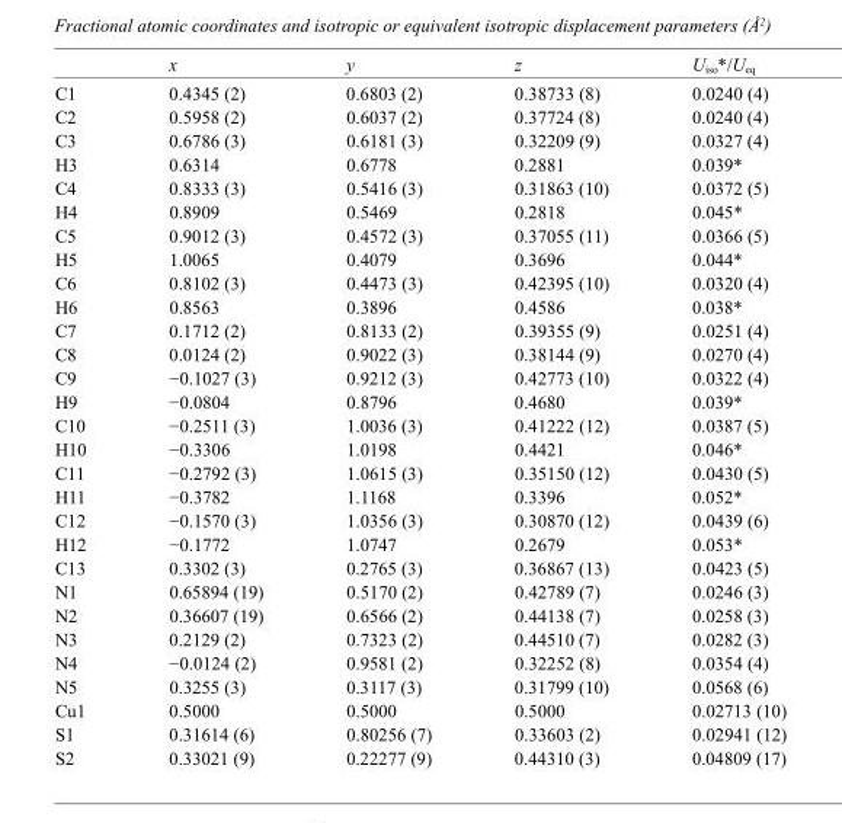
<table><thead><tr><td></td><td>x</td><td>y</td><td>z</td><td>U<sub>iso</sub>*/U<sub>eq</sub></td></tr></thead><tbody><tr><td>C1</td><td>0.4345 (2)</td><td>0.6803 (2)</td><td>0.38733 (8)</td><td>0.0240 (4)</td></tr><tr><td>C2</td><td>0.5958 (2)</td><td>0.6037 (2)</td><td>0.37724 (8)</td><td>0.0240 (4)</td></tr><tr><td>C3</td><td>0.6786 (3)</td><td>0.6181 (3)</td><td>0.32209 (9)</td><td>0.0327 (4)</td></tr><tr><td>H3</td><td>0.6314</td><td>0.6778</td><td>0.2881</td><td>0.039*</td></tr><tr><td>C4</td><td>0.8333 (3)</td><td>0.5416 (3)</td><td>0.31863 (10)</td><td>0.0372 (5)</td></tr><tr><td>H4</td><td>0.8909</td><td>0.5469</td><td>0.2818</td><td>0.045*</td></tr><tr><td>C5</td><td>0.9012 (3)</td><td>0.4572 (3)</td><td>0.37055 (11)</td><td>0.0366 (5)</td></tr><tr><td>H5</td><td>1.0065</td><td>0.4079</td><td>0.3696</td><td>0.044*</td></tr><tr><td>C6</td><td>0.8102 (3)</td><td>0.4473 (3)</td><td>0.42395 (10)</td><td>0.0320 (4)</td></tr><tr><td>H6</td><td>0.8563</td><td>0.3896</td><td>0.4586</td><td>0.038*</td></tr><tr><td>C7</td><td>0.1712 (2)</td><td>0.8133 (2)</td><td>0.39355 (9)</td><td>0.0251 (4)</td></tr><tr><td>C8</td><td>0.0124 (2)</td><td>0.9022 (3)</td><td>0.38144 (9)</td><td>0.0270 (4)</td></tr><tr><td>C9</td><td>−0.1027 (3)</td><td>0.9212 (3)</td><td>0.42773 (10)</td><td>0.0322 (4)</td></tr><tr><td>H9</td><td>−0.0804</td><td>0.8796</td><td>0.4680</td><td>0.039*</td></tr><tr><td>C10</td><td>−0.2511 (3)</td><td>1.0036 (3)</td><td>0.41222 (12)</td><td>0.0387 (5)</td></tr><tr><td>H10</td><td>−0.3306</td><td>1.0198</td><td>0.4421</td><td>0.046*</td></tr><tr><td>C11</td><td>−0.2792 (3)</td><td>1.0615 (3)</td><td>0.35150 (12)</td><td>0.0430 (5)</td></tr><tr><td>H11</td><td>−0.3782</td><td>1.1168</td><td>0.3396</td><td>0.052*</td></tr><tr><td>C12</td><td>−0.1570 (3)</td><td>1.0356 (3)</td><td>0.30870 (12)</td><td>0.0439 (6)</td></tr><tr><td>H12</td><td>−0.1772</td><td>1.0747</td><td>0.2679</td><td>0.053*</td></tr><tr><td>C13</td><td>0.3302 (3)</td><td>0.2765 (3)</td><td>0.36867 (13)</td><td>0.0423 (5)</td></tr><tr><td>N1</td><td>0.65894 (19)</td><td>0.5170 (2)</td><td>0.42789 (7)</td><td>0.0246 (3)</td></tr><tr><td>N2</td><td>0.36607 (19)</td><td>0.6566 (2)</td><td>0.44138 (7)</td><td>0.0258 (3)</td></tr><tr><td>N3</td><td>0.2129 (2)</td><td>0.7323 (2)</td><td>0.44510 (7)</td><td>0.0282 (3)</td></tr><tr><td>N4</td><td>−0.0124 (2)</td><td>0.9581 (2)</td><td>0.32252 (8)</td><td>0.0354 (4)</td></tr><tr><td>N5</td><td>0.3255 (3)</td><td>0.3117 (3)</td><td>0.31799 (10)</td><td>0.0568 (6)</td></tr><tr><td>Cu1</td><td>0.5000</td><td>0.5000</td><td>0.5000</td><td>0.02713 (10)</td></tr><tr><td>S1</td><td>0.31614 (6)</td><td>0.80256 (7)</td><td>0.33603 (2)</td><td>0.02941 (12)</td></tr><tr><td>S2</td><td>0.33021 (9)</td><td>0.22277 (9)</td><td>0.44310 (3)</td><td>0.04809 (17)</td></tr></tbody></table>